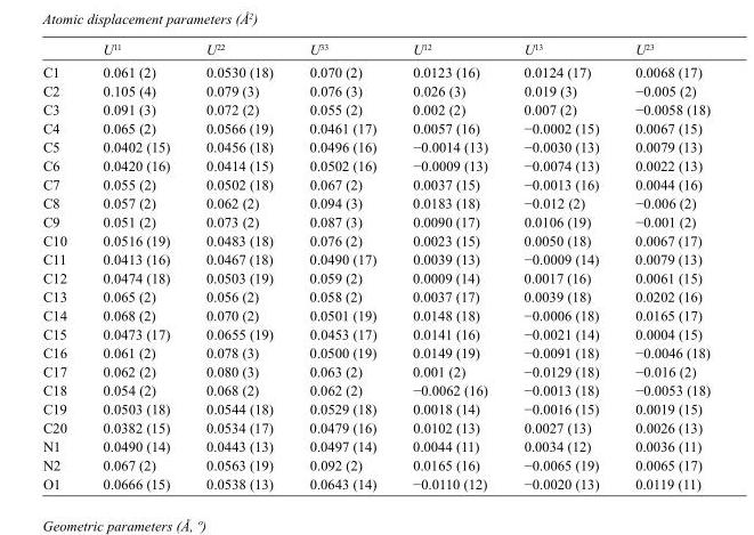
<table><thead><tr><td></td><td>U<sup>11</sup></td><td>U<sup>22</sup></td><td>U<sup>33</sup></td><td>U<sup>12</sup></td><td>U<sup>13</sup></td><td>U<sup>23</sup></td></tr></thead><tbody><tr><td>C1</td><td>0.061 (2)</td><td>0.0530 (18)</td><td>0.070 (2)</td><td>0.0123 (16)</td><td>0.0124 (17)</td><td>0.0068 (17)</td></tr><tr><td>C2</td><td>0.105 (4)</td><td>0.079 (3)</td><td>0.076 (3)</td><td>0.026 (3)</td><td>0.019 (3)</td><td>−0.005 (2)</td></tr><tr><td>C3</td><td>0.091 (3)</td><td>0.072 (2)</td><td>0.055 (2)</td><td>0.002 (2)</td><td>0.007 (2)</td><td>−0.0058 (18)</td></tr><tr><td>C4</td><td>0.065 (2)</td><td>0.0566 (19)</td><td>0.0461 (17)</td><td>0.0057 (16)</td><td>−0.0002 (15)</td><td>0.0067 (15)</td></tr><tr><td>C5</td><td>0.0402 (15)</td><td>0.0456 (18)</td><td>0.0496 (16)</td><td>−0.0014 (13)</td><td>−0.0030 (13)</td><td>0.0079 (13)</td></tr><tr><td>C6</td><td>0.0420 (16)</td><td>0.0414 (15)</td><td>0.0502 (16)</td><td>−0.0009 (13)</td><td>−0.0074 (13)</td><td>0.0022 (13)</td></tr><tr><td>C7</td><td>0.055 (2)</td><td>0.0502 (18)</td><td>0.067 (2)</td><td>0.0037 (15)</td><td>−0.0013 (16)</td><td>0.0044 (16)</td></tr><tr><td>C8</td><td>0.057 (2)</td><td>0.062 (2)</td><td>0.094 (3)</td><td>0.0183 (18)</td><td>−0.012 (2)</td><td>−0.006 (2)</td></tr><tr><td>C9</td><td>0.051 (2)</td><td>0.073 (2)</td><td>0.087 (3)</td><td>0.0090 (17)</td><td>0.0106 (19)</td><td>−0.001 (2)</td></tr><tr><td>C10</td><td>0.0516 (19)</td><td>0.0483 (18)</td><td>0.076 (2)</td><td>0.0023 (15)</td><td>0.0050 (18)</td><td>0.0067 (17)</td></tr><tr><td>C11</td><td>0.0413 (16)</td><td>0.0467 (18)</td><td>0.0490 (17)</td><td>0.0039 (13)</td><td>−0.0009 (14)</td><td>0.0079 (13)</td></tr><tr><td>C12</td><td>0.0474 (18)</td><td>0.0503 (19)</td><td>0.059 (2)</td><td>0.0009 (14)</td><td>0.0017 (16)</td><td>0.0061 (15)</td></tr><tr><td>C13</td><td>0.065 (2)</td><td>0.056 (2)</td><td>0.058 (2)</td><td>0.0037 (17)</td><td>0.0039 (18)</td><td>0.0202 (16)</td></tr><tr><td>C14</td><td>0.068 (2)</td><td>0.070 (2)</td><td>0.0501 (19)</td><td>0.0148 (18)</td><td>−0.0006 (18)</td><td>0.0165 (17)</td></tr><tr><td>C15</td><td>0.0473 (17)</td><td>0.0655 (19)</td><td>0.0453 (17)</td><td>0.0141 (16)</td><td>−0.0021 (14)</td><td>0.0004 (15)</td></tr><tr><td>C16</td><td>0.061 (2)</td><td>0.078 (3)</td><td>0.0500 (19)</td><td>0.0149 (19)</td><td>−0.0091 (18)</td><td>−0.0046 (18)</td></tr><tr><td>C17</td><td>0.062 (2)</td><td>0.080 (3)</td><td>0.063 (2)</td><td>0.001 (2)</td><td>−0.0129 (18)</td><td>−0.016 (2)</td></tr><tr><td>C18</td><td>0.054 (2)</td><td>0.068 (2)</td><td>0.062 (2)</td><td>−0.0062 (16)</td><td>−0.0013 (18)</td><td>−0.0053 (18)</td></tr><tr><td>C19</td><td>0.0503 (18)</td><td>0.0544 (18)</td><td>0.0529 (18)</td><td>0.0018 (14)</td><td>−0.0016 (15)</td><td>0.0019 (15)</td></tr><tr><td>C20</td><td>0.0382 (15)</td><td>0.0534 (17)</td><td>0.0479 (16)</td><td>0.0102 (13)</td><td>0.0027 (13)</td><td>0.0026 (13)</td></tr><tr><td>N1</td><td>0.0490 (14)</td><td>0.0443 (13)</td><td>0.0497 (14)</td><td>0.0044 (11)</td><td>0.0034 (12)</td><td>0.0036 (11)</td></tr><tr><td>N2</td><td>0.067 (2)</td><td>0.0563 (19)</td><td>0.092 (2)</td><td>0.0165 (16)</td><td>−0.0065 (19)</td><td>0.0065 (17)</td></tr><tr><td>O1</td><td>0.0666 (15)</td><td>0.0538 (13)</td><td>0.0643 (14)</td><td>−0.0110 (12)</td><td>−0.0020 (13)</td><td>0.0119 (11)</td></tr></tbody></table>